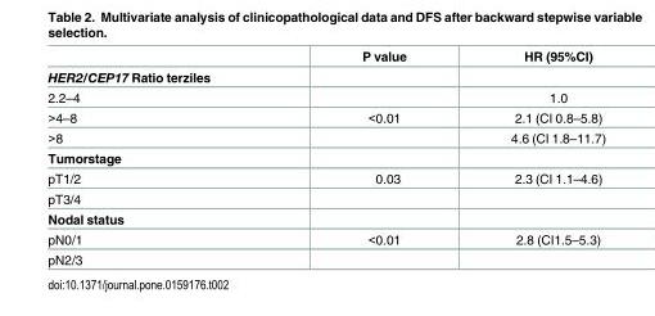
<table><thead><tr><td></td><td>P value</td><td>HR (95%CI)</td></tr></thead><tbody><tr><td colspan="3">HER2/CEP17 Ratio terziles</td></tr><tr><td>2.2–4</td><td></td><td>1.0</td></tr><tr><td>&gt;4–8</td><td>&lt;0.01</td><td>2.1 (CI 0.8–5.8)</td></tr><tr><td>&gt;8</td><td></td><td>4.6 (CI 1.8–11.7)</td></tr><tr><td colspan="3">Tumorstage</td></tr><tr><td>pT1/2</td><td>0.03</td><td>2.3 (CI 1.1–4.6)</td></tr><tr><td colspan="3">pT3/4</td></tr><tr><td colspan="3">Nodal status</td></tr><tr><td>pN0/1</td><td>&lt;0.01</td><td>2.8 (CI1.5–5.3)</td></tr><tr><td>pN2/3</td><td></td><td></td></tr></tbody></table>